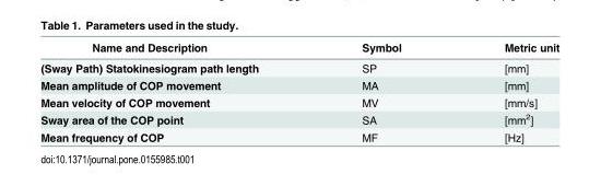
<table><thead><tr><td>Name and Description</td><td>Symbol</td><td>Metric unit</td></tr></thead><tbody><tr><td>(Sway Path) Statokinesiogram path length</td><td>SP</td><td>[mm]</td></tr><tr><td>Mean amplitude of COP movement</td><td>MA</td><td>[mm]</td></tr><tr><td>Mean velocity of COP movement</td><td>MV</td><td>[mm/s]</td></tr><tr><td>Sway area of the COP point</td><td>SA</td><td>[mm<sup>2</sup>]</td></tr><tr><td>Mean frequency of COP</td><td>MF</td><td>[Hz]</td></tr></tbody></table>